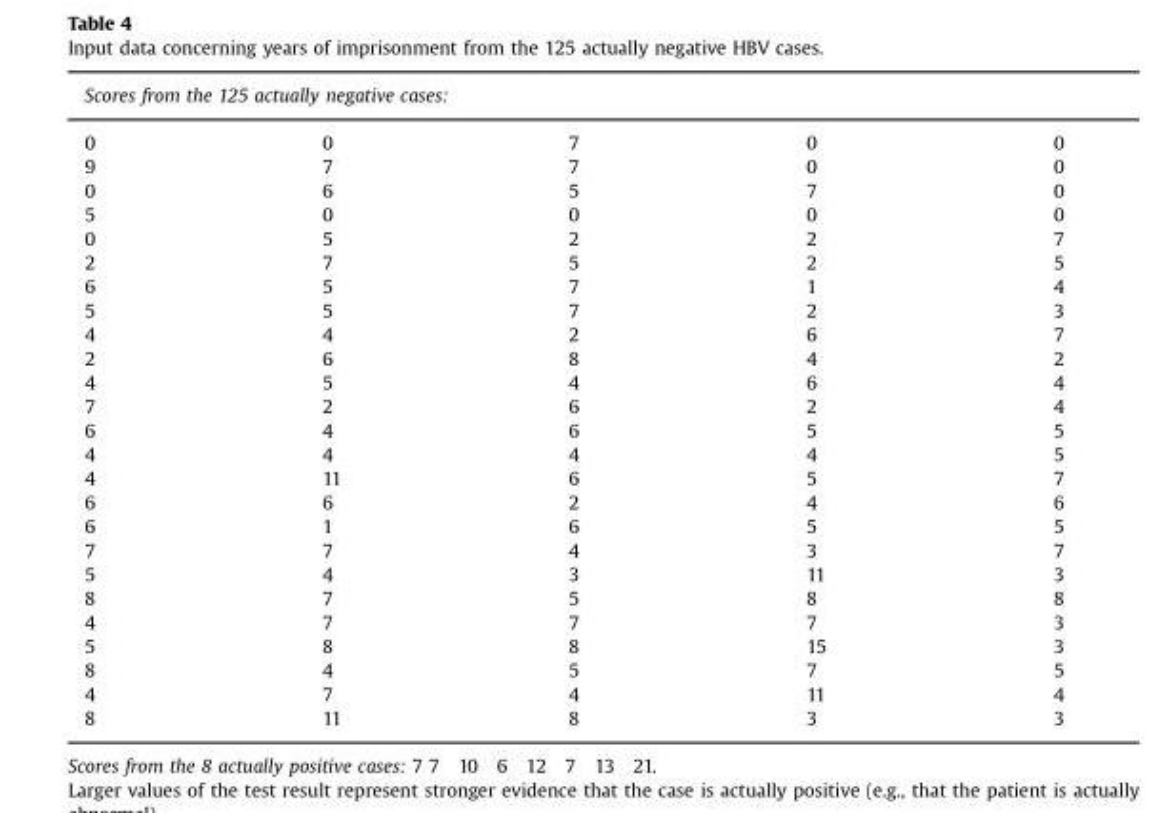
<table><thead><tr><td colspan="5">Scores from the 125 actually negative cases:</td></tr><tr><td>0</td><td>0</td><td>7</td><td>0</td><td>0</td></tr></thead><tbody><tr><td>9</td><td>7</td><td>7</td><td>0</td><td>0</td></tr><tr><td>0</td><td>6</td><td>5</td><td>7</td><td>0</td></tr><tr><td>5</td><td>0</td><td>0</td><td>0</td><td>0</td></tr><tr><td>0</td><td>5</td><td>2</td><td>2</td><td>7</td></tr><tr><td>2</td><td>7</td><td>5</td><td>2</td><td>5</td></tr><tr><td>6</td><td>5</td><td>7</td><td>1</td><td>4</td></tr><tr><td>5</td><td>5</td><td>7</td><td>2</td><td>3</td></tr><tr><td>4</td><td>4</td><td>2</td><td>6</td><td>7</td></tr><tr><td>2</td><td>6</td><td>8</td><td>4</td><td>2</td></tr><tr><td>4</td><td>5</td><td>4</td><td>6</td><td>4</td></tr><tr><td>7</td><td>2</td><td>6</td><td>2</td><td>4</td></tr><tr><td>6</td><td>4</td><td>6</td><td>5</td><td>5</td></tr><tr><td>4</td><td>4</td><td>4</td><td>4</td><td>5</td></tr><tr><td>4</td><td>11</td><td>6</td><td>5</td><td>7</td></tr><tr><td>6</td><td>6</td><td>2</td><td>4</td><td>6</td></tr><tr><td>6</td><td>1</td><td>6</td><td>5</td><td>5</td></tr><tr><td>7</td><td>7</td><td>4</td><td>3</td><td>7</td></tr><tr><td>5</td><td>4</td><td>3</td><td>11</td><td>3</td></tr><tr><td>8</td><td>7</td><td>5</td><td>8</td><td>8</td></tr><tr><td>4</td><td>7</td><td>7</td><td>7</td><td>3</td></tr><tr><td>5</td><td>8</td><td>8</td><td>15</td><td>3</td></tr><tr><td>8</td><td>4</td><td>5</td><td>7</td><td>5</td></tr><tr><td>4</td><td>7</td><td>4</td><td>11</td><td>4</td></tr><tr><td>8</td><td>11</td><td>8</td><td>3</td><td>3</td></tr></tbody></table>